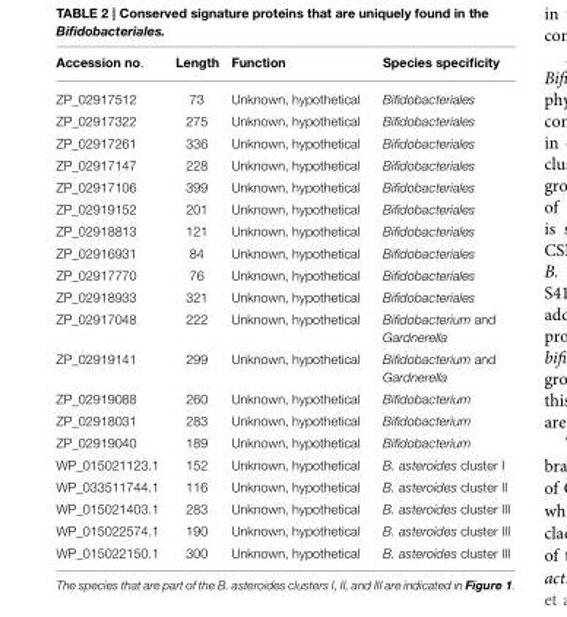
<table><thead><tr><td>Accession no.</td><td>Length</td><td>Function</td><td>Species specificity</td></tr></thead><tbody><tr><td>ZP_02917512</td><td>73</td><td>Unknown, hypothetical</td><td>Bifidobacteriales</td></tr><tr><td>ZP_02917322</td><td>275</td><td>Unknown, hypothetical</td><td>Bifidobacteriales</td></tr><tr><td>ZP_02917261</td><td>336</td><td>Unknown, hypothetical</td><td>Bifidobacteriales</td></tr><tr><td>ZP_02917147</td><td>228</td><td>Unknown, hypothetical</td><td>Bifidobacteriales</td></tr><tr><td>ZP_02917106</td><td>399</td><td>Unknown, hypothetical</td><td>Bifidobacteriales</td></tr><tr><td>ZP_02919152</td><td>201</td><td>Unknown, hypothetical</td><td>Bifidobacteriales</td></tr><tr><td>ZP_02918813</td><td>121</td><td>Unknown, hypothetical</td><td>Bifidobacteriales</td></tr><tr><td>ZP_02916931</td><td>84</td><td>Unknown, hypothetical</td><td>Bifidobacteriales</td></tr><tr><td>ZP_02917770</td><td>76</td><td>Unknown, hypothetical</td><td>Bifidobacteriales</td></tr><tr><td>ZP_02918933</td><td>321</td><td>Unknown, hypothetical</td><td>Bifidobacteriales</td></tr><tr><td>ZP_02917048</td><td>222</td><td>Unknown, hypothetical</td><td>Bifidobacterium and Gardnerella</td></tr><tr><td>ZP_02919141</td><td>299</td><td>Unknown, hypothetical</td><td>Bifidobacterium and Gardnerella</td></tr><tr><td>ZP_02919088</td><td>260</td><td>Unknown, hypothetical</td><td>Bifidobacterium</td></tr><tr><td>ZP_02918031</td><td>283</td><td>Unknown, hypothetical</td><td>Bifidobacterium</td></tr><tr><td>ZP_02919040</td><td>189</td><td>Unknown, hypothetical</td><td>Bifidobacterium</td></tr><tr><td>WP_015021123.1</td><td>152</td><td>Unknown, hypothetical</td><td>B. asteroides cluster I</td></tr><tr><td>WP_033511744.1</td><td>116</td><td>Unknown, hypothetical</td><td>B. asteroides cluster II</td></tr><tr><td>WP_015021403.1</td><td>283</td><td>Unknown, hypothetical</td><td>B. asteroides cluster III</td></tr><tr><td>WP_015022574.1</td><td>190</td><td>Unknown, hypothetical</td><td>B. asteroides cluster III</td></tr><tr><td>WP_015022150.1</td><td>300</td><td>Unknown, hypothetical</td><td>B. asteroides cluster III</td></tr></tbody></table>